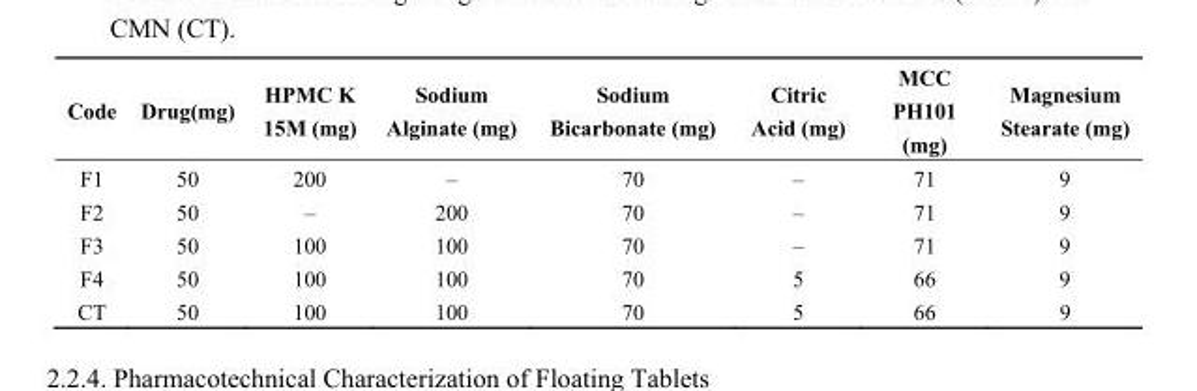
<table><thead><tr><td>Code</td><td>Drug(mg)</td><td>HPMC K 15M (mg)</td><td>Sodium Alginate (mg)</td><td>Sodium Bicarbonate (mg)</td><td>Citric Acid (mg)</td><td>MCC PH101 (mg)</td><td>Magnesium Stearate (mg)</td></tr></thead><tbody><tr><td>F1</td><td>50</td><td>200</td><td>–</td><td>70</td><td>–</td><td>71</td><td>9</td></tr><tr><td>F2</td><td>50</td><td>–</td><td>200</td><td>70</td><td>–</td><td>71</td><td>9</td></tr><tr><td>F3</td><td>50</td><td>100</td><td>100</td><td>70</td><td>–</td><td>71</td><td>9</td></tr><tr><td>F4</td><td>50</td><td>100</td><td>100</td><td>70</td><td>5</td><td>66</td><td>9</td></tr><tr><td>CT</td><td>50</td><td>100</td><td>100</td><td>70</td><td>5</td><td>66</td><td>9</td></tr></tbody></table>